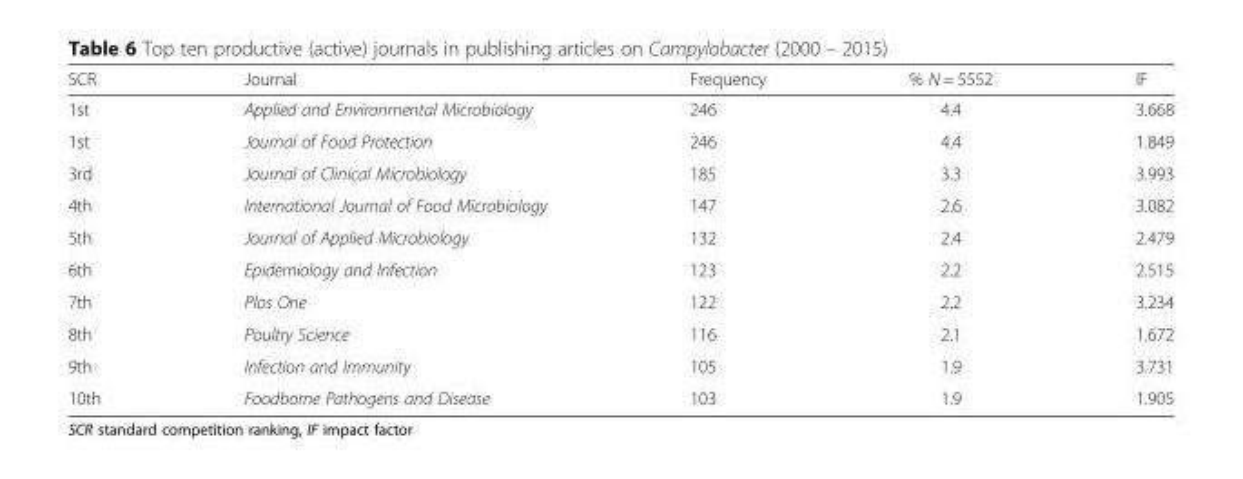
<table><thead><tr><td>SCR</td><td>Journal</td><td>Frequency</td><td>% N = 5552</td><td>IF</td></tr></thead><tbody><tr><td>1st</td><td>Applied and Environmental Microbiology</td><td>246</td><td>4.4</td><td>3.668</td></tr><tr><td>1st</td><td>Journal of Food Protection</td><td>246</td><td>4.4</td><td>1.849</td></tr><tr><td>3rd</td><td>Journal of Clinical Microbiology</td><td>185</td><td>3.3</td><td>3.993</td></tr><tr><td>4th</td><td>International Journal of Food Microbiology</td><td>147</td><td>2.6</td><td>3.082</td></tr><tr><td>5th</td><td>Journal of Applied Microbiology</td><td>132</td><td>2.4</td><td>2.479</td></tr><tr><td>6th</td><td>Epidemiology and Infection</td><td>123</td><td>2.2</td><td>2.515</td></tr><tr><td>7th</td><td>Plos One</td><td>122</td><td>2.2</td><td>3.234</td></tr><tr><td>8th</td><td>Poultry Science</td><td>116</td><td>2.1</td><td>1.672</td></tr><tr><td>9th</td><td>Infection and Immunity</td><td>105</td><td>1.9</td><td>3.731</td></tr><tr><td>10th</td><td>Foodborne Pathogens and Disease</td><td>103</td><td>1.9</td><td>1.905</td></tr></tbody></table>